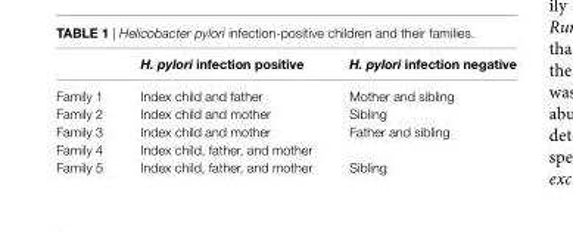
<table><thead><tr><td></td><td>H. pylori infection positive</td><td>H. pylori infection negative</td></tr></thead><tbody><tr><td>Family 1</td><td>Index child and father</td><td>Mother and sibling</td></tr><tr><td>Family 2</td><td>Index child and mother</td><td>Sibling</td></tr><tr><td>Family 3</td><td>Index child and mother</td><td>Father and sibling</td></tr><tr><td>Family 4</td><td>Index child, father, and mother</td><td></td></tr><tr><td>Family 5</td><td>Index child, father, and mother</td><td>Sibling</td></tr></tbody></table>